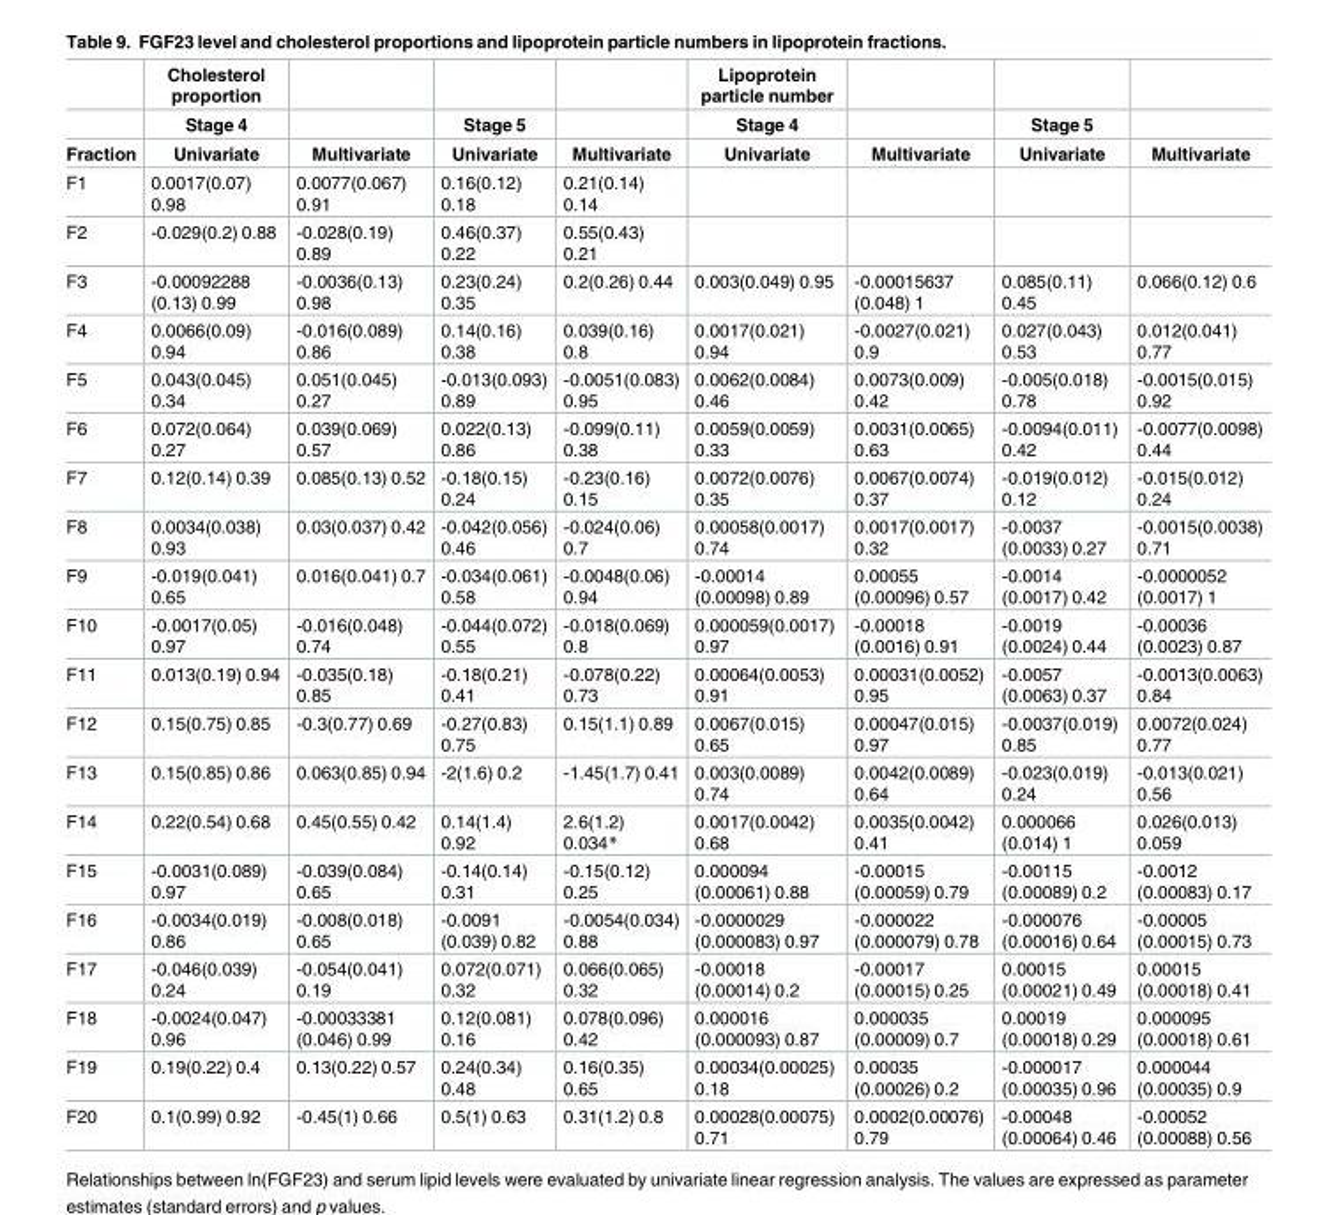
<table><thead><tr><td rowspan="3">Fraction</td><td rowspan="3">Cholesterol proportion Stage 4 Univariate</td><td rowspan="3">Multivariate</td><td rowspan="3">Stage 5 Univariate</td><td rowspan="3">Multivariate</td><td rowspan="3">Lipoprotein particle number Stage 4 Univariate</td><td rowspan="3">Multivariate</td><td rowspan="3">Stage 5 Univariate</td><td rowspan="3">Multivariate</td></tr><tr></tr><tr></tr></thead><tbody><tr><td>F1</td><td>0.0017(0.07) 0.98</td><td>0.0077(0.067) 0.91</td><td>0.16(0.12) 0.18</td><td>0.21(0.14) 0.14</td><td></td><td></td><td></td><td></td></tr><tr><td>F2</td><td>-0.029(0.2) 0.88</td><td>-0.028(0.19) 0.89</td><td>0.46(0.37) 0.22</td><td>0.55(0.43) 0.21</td><td></td><td></td><td></td><td></td></tr><tr><td>F3</td><td>-0.00092288 (0.13) 0.99</td><td>-0.0036(0.13) 0.98</td><td>0.23(0.24) 0.35</td><td>0.2(0.26) 0.44</td><td>0.003(0.049) 0.95</td><td>-0.00015637 (0.048) 1</td><td>0.085(0.11) 0.45</td><td>0.066(0.12) 0.6</td></tr><tr><td>F4</td><td>0.0066(0.09) 0.94</td><td>-0.016(0.089) 0.86</td><td>0.14(0.16) 0.38</td><td>0.039(0.16) 0.8</td><td>0.0017(0.021) 0.94</td><td>-0.0027(0.021) 0.9</td><td>0.027(0.043) 0.53</td><td>0.012(0.041) 0.77</td></tr><tr><td>F5</td><td>0.043(0.045) 0.34</td><td>0.051(0.045) 0.27</td><td>-0.013(0.093) 0.89</td><td>-0.0051(0.083) 0.95</td><td>0.0062(0.0084) 0.46</td><td>0.0073(0.009) 0.42</td><td>-0.005(0.018) 0.78</td><td>-0.0015(0.015) 0.92</td></tr><tr><td>F6</td><td>0.072(0.064) 0.27</td><td>0.039(0.069) 0.57</td><td>0.022(0.13) 0.86</td><td>-0.099(0.11) 0.38</td><td>0.0059(0.0059) 0.33</td><td>0.0031(0.0065) 0.63</td><td>-0.0094(0.011) 0.42</td><td>-0.0077(0.0098) 0.44</td></tr><tr><td>F7</td><td>0.12(0.14) 0.39</td><td>0.085(0.13) 0.52</td><td>-0.18(0.15) 0.24</td><td>-0.23(0.16) 0.15</td><td>0.0072(0.0076) 0.35</td><td>0.0067(0.0074) 0.37</td><td>-0.019(0.012) 0.12</td><td>-0.015(0.012) 0.24</td></tr><tr><td>F8</td><td>0.0034(0.038) 0.93</td><td>0.03(0.037) 0.42</td><td>-0.042(0.056) 0.46</td><td>-0.024(0.06) 0.7</td><td>0.00058(0.0017) 0.74</td><td>0.0017(0.0017) 0.32</td><td>-0.0037 (0.0033) 0.27</td><td>-0.0015(0.0038) 0.71</td></tr><tr><td>F9</td><td>-0.019(0.041) 0.65</td><td>0.016(0.041) 0.7</td><td>-0.034(0.061) 0.58</td><td>-0.0048(0.06) 0.94</td><td>-0.00014 (0.00098) 0.89</td><td>0.00055 (0.00096) 0.57</td><td>-0.0014 (0.0017) 0.42</td><td>-0.0000052 (0.0017) 1</td></tr><tr><td>F10</td><td>-0.0017(0.05) 0.97</td><td>-0.016(0.048) 0.74</td><td>-0.044(0.072) 0.55</td><td>-0.018(0.069) 0.8</td><td>0.000059(0.0017) 0.97</td><td>-0.00018 (0.0016) 0.91</td><td>-0.0019 (0.0024) 0.44</td><td>-0.00036 (0.0023) 0.87</td></tr><tr><td>F11</td><td>0.013(0.19) 0.94</td><td>-0.035(0.18) 0.85</td><td>-0.18(0.21) 0.41</td><td>-0.078(0.22) 0.73</td><td>0.00064(0.0053) 0.91</td><td>0.00031(0.0052) 0.95</td><td>-0.0057 (0.0063) 0.37</td><td>-0.0013(0.0063) 0.84</td></tr><tr><td>F12</td><td>0.15(0.75) 0.85</td><td>-0.3(0.77) 0.69</td><td>-0.27(0.83) 0.75</td><td>0.15(1.1) 0.89</td><td>0.0067(0.015) 0.65</td><td>0.00047(0.015) 0.97</td><td>-0.0037(0.019) 0.85</td><td>0.0072(0.024) 0.77</td></tr><tr><td>F13</td><td>0.15(0.85) 0.86</td><td>0.063(0.85) 0.94</td><td>-2(1.6) 0.2</td><td>-1.45(1.7) 0.41</td><td>0.003(0.0089) 0.74</td><td>0.0042(0.0089) 0.64</td><td>-0.023(0.019) 0.24</td><td>-0.013(0.021) 0.56</td></tr><tr><td>F14</td><td>0.22(0.54) 0.68</td><td>0.45(0.55) 0.42</td><td>0.14(1.4) 0.92</td><td>2.6(1.2) 0.034*</td><td>0.0017(0.0042) 0.68</td><td>0.0035(0.0042) 0.41</td><td>0.000066 (0.014) 1</td><td>0.026(0.013) 0.059</td></tr><tr><td>F15</td><td>-0.0031(0.089) 0.97</td><td>-0.039(0.084) 0.65</td><td>-0.14(0.14) 0.31</td><td>-0.15(0.12) 0.25</td><td>0.000094 (0.00061) 0.88</td><td>-0.00015 (0.00059) 0.79</td><td>-0.00115 (0.00089) 0.2</td><td>-0.0012 (0.00083) 0.17</td></tr><tr><td>F16</td><td>-0.0034(0.019) 0.86</td><td>-0.008(0.018) 0.65</td><td>-0.0091 (0.039) 0.82</td><td>-0.0054(0.034) 0.88</td><td>-0.0000029 (0.000083) 0.97</td><td>-0.000022 (0.000079) 0.78</td><td>-0.000076 (0.00016) 0.64</td><td>-0.00005 (0.00015) 0.73</td></tr><tr><td>F17</td><td>-0.046(0.039) 0.24</td><td>-0.054(0.041) 0.19</td><td>0.072(0.071) 0.32</td><td>0.066(0.065) 0.32</td><td>-0.00018 (0.00014) 0.2</td><td>-0.00017 (0.00015) 0.25</td><td>0.00015 (0.00021) 0.49</td><td>0.00015 (0.00018) 0.41</td></tr><tr><td>F18</td><td>-0.0024(0.047) 0.96</td><td>-0.00033381 (0.046) 0.99</td><td>0.12(0.081) 0.16</td><td>0.078(0.096) 0.42</td><td>0.000016 (0.000093) 0.87</td><td>0.000035 (0.00009) 0.7</td><td>0.00019 (0.00018) 0.29</td><td>0.000095 (0.00018) 0.61</td></tr><tr><td>F19</td><td>0.19(0.22) 0.4</td><td>0.13(0.22) 0.57</td><td>0.24(0.34) 0.48</td><td>0.16(0.35) 0.65</td><td>0.00034(0.00025) 0.18</td><td>0.00035 (0.00026) 0.2</td><td>-0.000017 (0.00035) 0.96</td><td>0.000044 (0.00035) 0.9</td></tr><tr><td>F20</td><td>0.1(0.99) 0.92</td><td>-0.45(1) 0.66</td><td>0.5(1) 0.63</td><td>0.31(1.2) 0.8</td><td>0.00028(0.00075) 0.71</td><td>0.0002(0.00076) 0.79</td><td>-0.00048 (0.00064) 0.46</td><td>-0.00052 (0.00088) 0.56</td></tr></tbody></table>